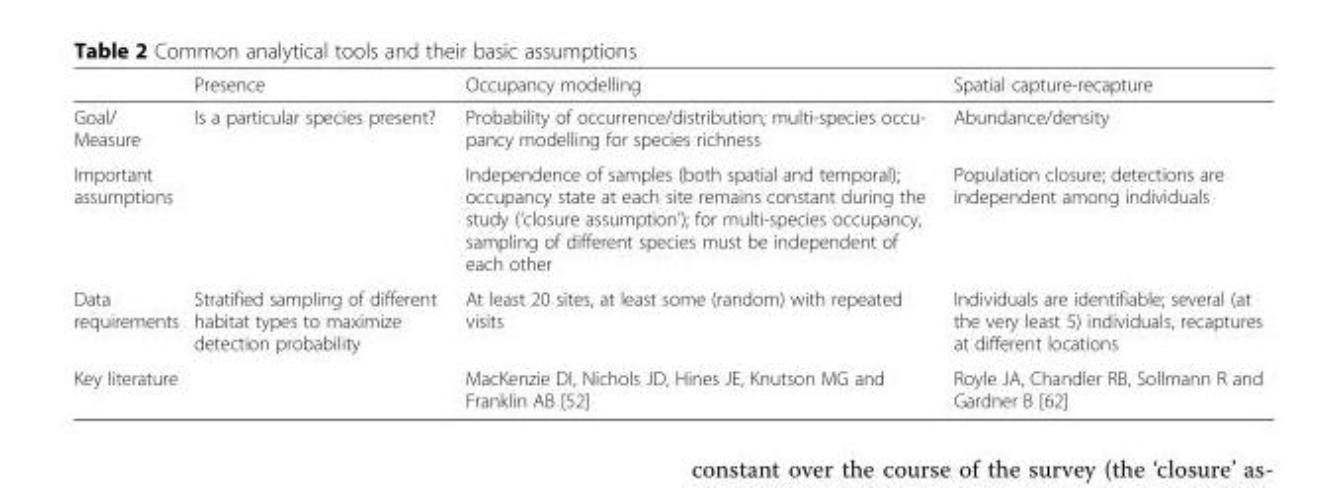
<table><thead><tr><td></td><td>Presence</td><td>Occupancy modelling</td><td>Spatial capture-recapture</td></tr></thead><tbody><tr><td>Goal/ Measure</td><td>Is a particular species present?</td><td>Probability of occurrence/distribution; multi-species occu- pancy modelling for species richness</td><td>Abundance/density</td></tr><tr><td>Important assumptions</td><td></td><td>Independence of samples (both spatial and temporal); occupancy state at each site remains constant during the study (‘closure assumption’); for multi-species occupancy, sampling of different species must be independent of each other</td><td>Population closure; detections are independent among individuals</td></tr><tr><td>Data requirements</td><td>Stratified sampling of different habitat types to maximize detection probability</td><td>At least 20 sites, at least some (random) with repeated visits</td><td>Individuals are identifiable; several (at the very least 5) individuals, recaptures at different locations</td></tr><tr><td>Key literature</td><td></td><td>MacKenzie DI, Nichols JD, Hines JE, Knutson MG and Franklin AB [52]</td><td>Royle JA, Chandler RB, Sollmann R and Gardner B [62]</td></tr></tbody></table>